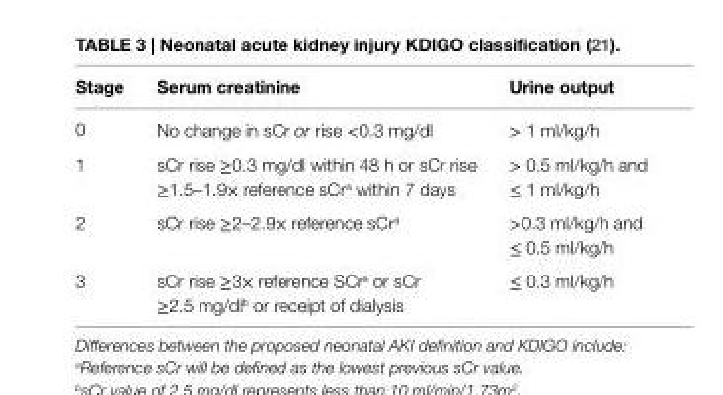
<table><thead><tr><td>Stage</td><td>Serum creatinine</td><td>urine output</td></tr></thead><tbody><tr><td>0</td><td>No change in sCr or rise &lt;0.3 mg/dl</td><td>&gt; 1 ml/kg/h</td></tr><tr><td>1</td><td>sCr rise ≥0.3 mg/dl within 48 h or sCr rise ≥1.5–1.9× reference sCr<sup>a</sup> within 7 days</td><td>&gt; 0.5 ml/kg/h and ≤ 1 ml/kg/h</td></tr><tr><td>2</td><td>sCr rise ≥2–2.9× reference sCr<sup>a</sup></td><td>&gt;0.3 ml/kg/h and ≤ 0.5 ml/kg/h</td></tr><tr><td>3</td><td>sCr rise ≥3× reference SCr<sup>a</sup> or sCr ≥2.5 mg/dl<sup>b</sup> or receipt of dialysis</td><td>≤ 0.3 ml/kg/h</td></tr></tbody></table>